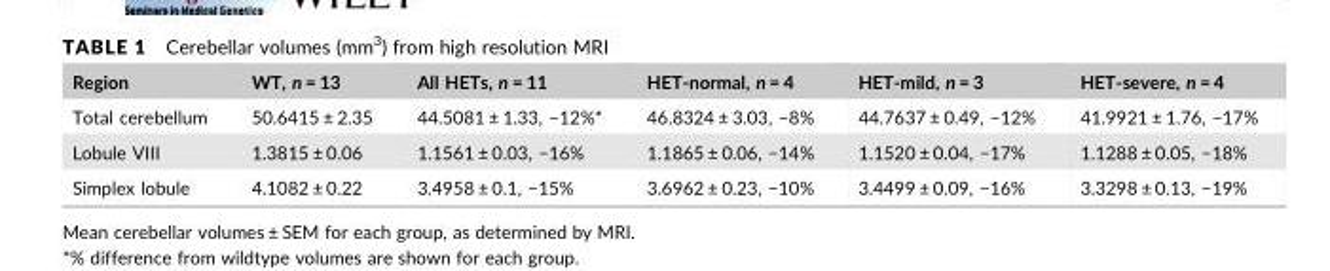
<table><thead><tr><td>Region</td><td>WT, n = 13</td><td>All HETs, n = 11</td><td>HET-normal, n = 4</td><td>HET-mild, n = 3</td><td>HET-severe, n = 4</td></tr></thead><tbody><tr><td>Total cerebellum</td><td>50.6415 ± 2.35</td><td>44.5081 ± 1.33, −12%*</td><td>46.8324 ± 3.03, −8%</td><td>44.7637 ± 0.49, −12%</td><td>41.9921 ± 1.76, −17%</td></tr><tr><td>Lobule VIII</td><td>1.3815 ± 0.06</td><td>1.1561 ± 0.03, −16%</td><td>1.1865 ± 0.06, −14%</td><td>1.1520 ± 0.04, −17%</td><td>1.1288 ± 0.05, −18%</td></tr><tr><td>Simplex lobule</td><td>4.1082 ± 0.22</td><td>3.4958 ± 0.1, −15%</td><td>3.6962 ± 0.23, −10%</td><td>3.4499 ± 0.09, −16%</td><td>3.3298 ± 0.13, −19%</td></tr></tbody></table>